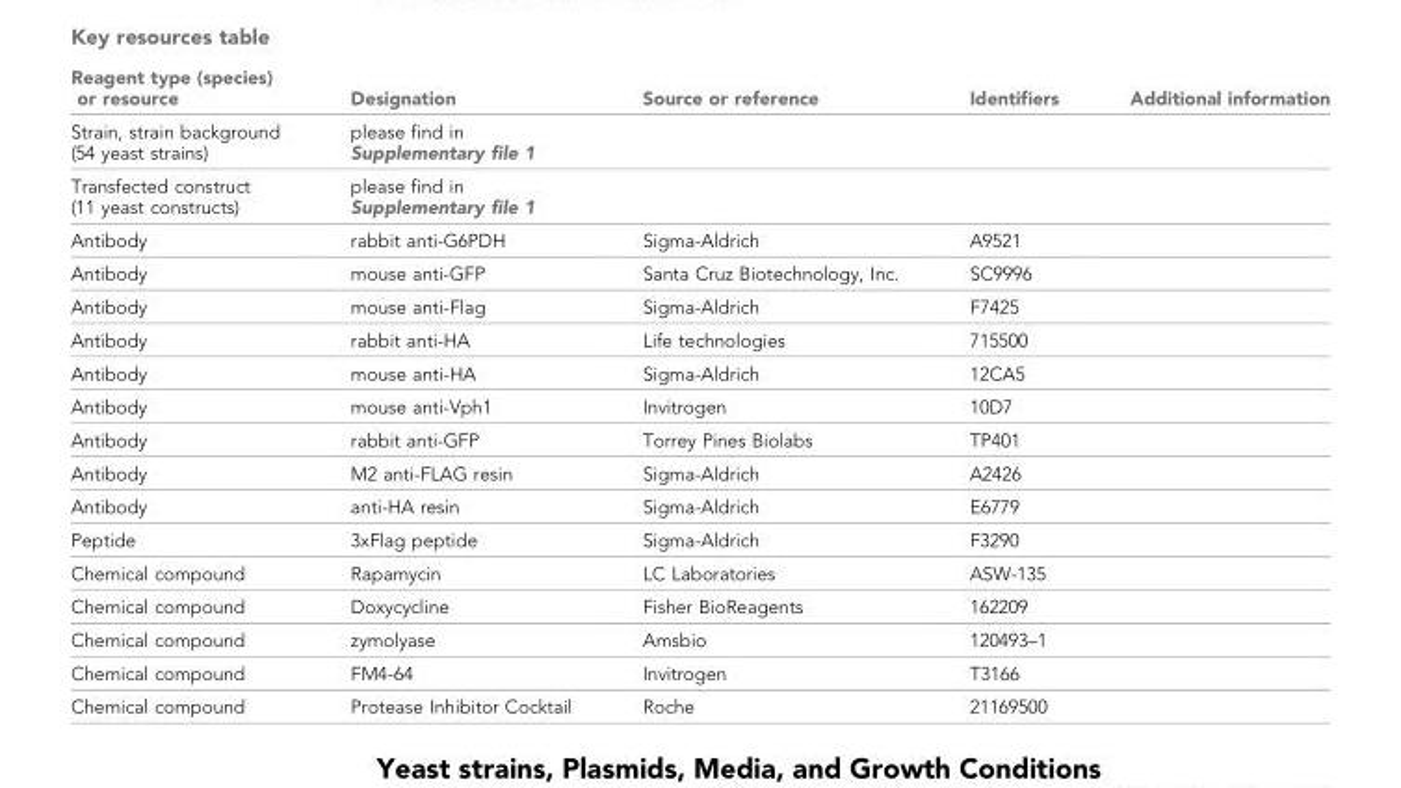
<table><thead><tr><td>Reagent type (species) or resource</td><td>Designation</td><td>Source or reference</td><td>Identifiers</td><td>Additional information</td></tr></thead><tbody><tr><td>Strain, strain background (54 yeast strains)</td><td>please find in Supplementary file 1</td><td></td><td></td><td></td></tr><tr><td>Transfected construct (11 yeast constructs)</td><td>please find in Supplementary file 1</td><td></td><td></td><td></td></tr><tr><td>Antibody</td><td>rabbit anti-G6PDH</td><td>Sigma-Aldrich</td><td>A9521</td><td></td></tr><tr><td>Antibody</td><td>mouse anti-GFP</td><td>Santa Cruz Biotechnology, Inc.</td><td>SC9996</td><td></td></tr><tr><td>Antibody</td><td>mouse anti-Flag</td><td>Sigma-Aldrich</td><td>F7425</td><td></td></tr><tr><td>Antibody</td><td>rabbit anti-HA</td><td>Life technologies</td><td>715500</td><td></td></tr><tr><td>Antibody</td><td>mouse anti-HA</td><td>Sigma-Aldrich</td><td>12CA5</td><td></td></tr><tr><td>Antibody</td><td>mouse anti-Vph1</td><td>Invitrogen</td><td>10D7</td><td></td></tr><tr><td>Antibody</td><td>rabbit anti-GFP</td><td>Torrey Pines Biolabs</td><td>TP401</td><td></td></tr><tr><td>Antibody</td><td>M2 anti-FLAG resin</td><td>Sigma-Aldrich</td><td>A2426</td><td></td></tr><tr><td>Antibody</td><td>anti-HA resin</td><td>Sigma-Aldrich</td><td>E6779</td><td></td></tr><tr><td>Peptide</td><td>3xFlag peptide</td><td>Sigma-Aldrich</td><td>F3290</td><td></td></tr><tr><td>Chemical compound</td><td>Rapamycin</td><td>LC Laboratories</td><td>ASW-135</td><td></td></tr><tr><td>Chemical compound</td><td>Doxycycline</td><td>Fisher BioReagents</td><td>162209</td><td></td></tr><tr><td>Chemical compound</td><td>zymolyase</td><td>Amsbio</td><td>120493–1</td><td></td></tr><tr><td>Chemical compound</td><td>FM4-64</td><td>Invitrogen</td><td>T3166</td><td></td></tr><tr><td>Chemical compound</td><td>Protease Inhibitor Cocktail</td><td>Roche</td><td>21169500</td><td></td></tr></tbody></table>